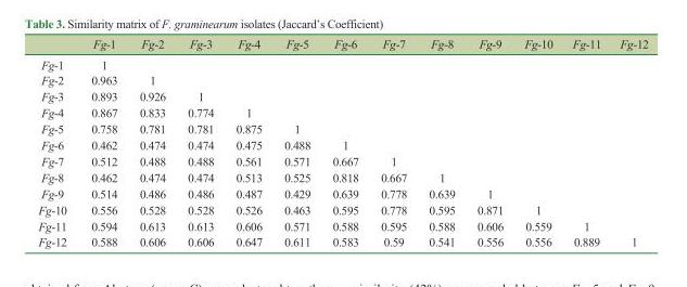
<table><thead><tr><td></td><td>Fg-1</td><td>Fg-2</td><td>Fg-3</td><td>Fg-4</td><td>Fg-5</td><td>Fg-6</td><td>Fg-7</td><td>Fg-8</td><td>Fg-9</td><td>Fg-10</td><td>Fg-11</td><td>Fg-12</td></tr></thead><tbody><tr><td>Fg-1</td><td>1</td><td></td><td></td><td></td><td></td><td></td><td></td><td></td><td></td><td></td><td></td><td></td></tr><tr><td>Fg-2</td><td>0.963</td><td>1</td><td></td><td></td><td></td><td></td><td></td><td></td><td></td><td></td><td></td><td></td></tr><tr><td>Fg-3</td><td>0.893</td><td>0.926</td><td>1</td><td></td><td></td><td></td><td></td><td></td><td></td><td></td><td></td><td></td></tr><tr><td>Fg-4</td><td>0.867</td><td>0.833</td><td>0.774</td><td>1</td><td></td><td></td><td></td><td></td><td></td><td></td><td></td><td></td></tr><tr><td>Fg-5</td><td>0.758</td><td>0.781</td><td>0.781</td><td>0.875</td><td>1</td><td></td><td></td><td></td><td></td><td></td><td></td><td></td></tr><tr><td>Fg-6</td><td>0.462</td><td>0.474</td><td>0.474</td><td>0.475</td><td>0.488</td><td>1</td><td></td><td></td><td></td><td></td><td></td><td></td></tr><tr><td>Fg-7</td><td>0.512</td><td>0.488</td><td>0.488</td><td>0.561</td><td>0.571</td><td>0.667</td><td>1</td><td></td><td></td><td></td><td></td><td></td></tr><tr><td>Fg-8</td><td>0.462</td><td>0.474</td><td>0.474</td><td>0.513</td><td>0.525</td><td>0.818</td><td>0.667</td><td>1</td><td></td><td></td><td></td><td></td></tr><tr><td>Fg-9</td><td>0.514</td><td>0.486</td><td>0.486</td><td>0.487</td><td>0.429</td><td>0.639</td><td>0.778</td><td>0.639</td><td>1</td><td></td><td></td><td></td></tr><tr><td>Fg-10</td><td>0.556</td><td>0.528</td><td>0.528</td><td>0.526</td><td>0.463</td><td>0.595</td><td>0.778</td><td>0.595</td><td>0.871</td><td>1</td><td></td><td></td></tr><tr><td>Fg-11</td><td>0.594</td><td>0.613</td><td>0.613</td><td>0.606</td><td>0.571</td><td>0.588</td><td>0.595</td><td>0.588</td><td>0.606</td><td>0.559</td><td>1</td><td></td></tr><tr><td>Fg-12</td><td>0.588</td><td>0.606</td><td>0.606</td><td>0.647</td><td>0.611</td><td>0.583</td><td>0.59</td><td>0.541</td><td>0.556</td><td>0.556</td><td>0.889</td><td>1</td></tr></tbody></table>